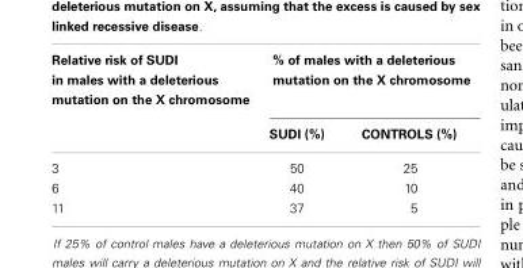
<table><thead><tr><td rowspan="2">Relative risk of SUDI in males with a deleterious mutation on the X chromosome</td><td colspan="2">% of males with a deleterious mutation on the X chromosome</td></tr><tr><td>SUDI (%)</td><td>CONTROLS (%)</td></tr></thead><tbody><tr><td>3</td><td>50</td><td>25</td></tr><tr><td>6</td><td>40</td><td>10</td></tr><tr><td>11</td><td>37</td><td>5</td></tr></tbody></table>